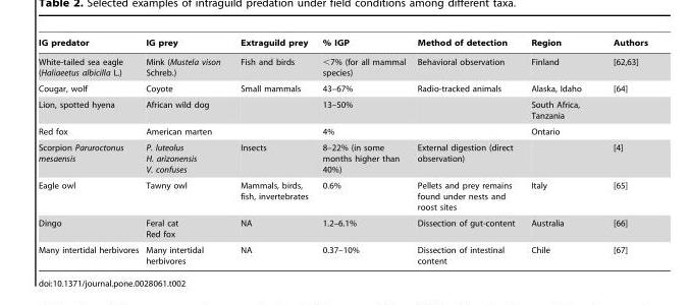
<table><thead><tr><td>IG predator</td><td>IG prey</td><td>Extraguild prey</td><td>% IGP</td><td>Method of detection</td><td>Region</td><td>Authors</td></tr></thead><tbody><tr><td>White-tailed sea eagle (Haliaeetus albicilla L.)</td><td>Mink (Mustela vison Schreb.)</td><td>Fish and birds</td><td>&lt;7% (for all mammal species)</td><td>Behavioral observation</td><td>Finland</td><td>[62,63]</td></tr><tr><td>Cougar, wolf</td><td>Coyote</td><td>Small mammals</td><td>43–67%</td><td>Radio-tracked animals</td><td>Alaska, Idaho</td><td>[64]</td></tr><tr><td>Lion, spotted hyena</td><td>African wild dog</td><td></td><td>13–50%</td><td></td><td>South Africa, Tanzania</td><td></td></tr><tr><td>Red fox</td><td>American marten</td><td></td><td>4%</td><td></td><td>Ontario</td><td></td></tr><tr><td>Scorpion Paruroctonus mesaensis</td><td>P. luteolus H. arizonensis V. confuses</td><td>Insects</td><td>8–22% (in some months higher than 40%)</td><td>External digestion (direct observation)</td><td></td><td>[4]</td></tr><tr><td>Eagle owl</td><td>Tawny owl</td><td>Mammals, birds, fish, invertebrates</td><td>0.6%</td><td>Pellets and prey remains found under nests and roost sites</td><td>Italy</td><td>[65]</td></tr><tr><td>Dingo</td><td>Feral cat Red fox</td><td>NA</td><td>1.2–6.1%</td><td>Dissection of gut-content</td><td>Australia</td><td>[66]</td></tr><tr><td>Many intertidal herbivores</td><td>Many intertidal herbivores</td><td>NA</td><td>0.37–10%</td><td>Dissection of intestinal content</td><td>Chile</td><td>[67]</td></tr></tbody></table>